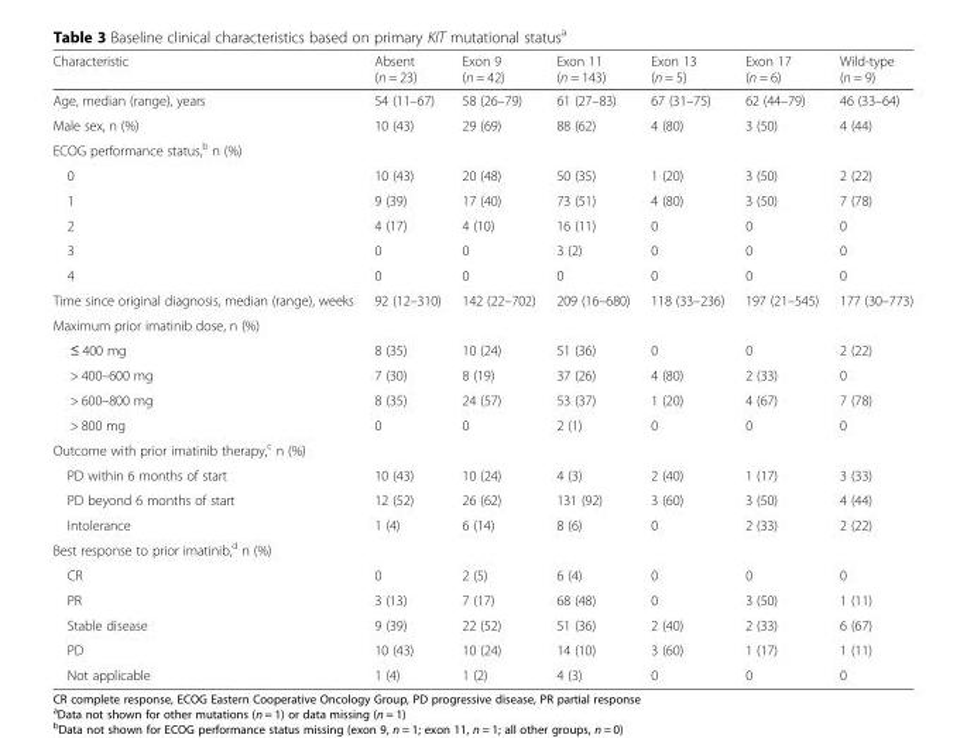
<table><thead><tr><td>Characteristic</td><td>Absent (n = 23)</td><td>Exon 9 (n = 42)</td><td>Exon 11 (n = 143)</td><td>Exon 13 (n = 5)</td><td>Exon 17 (n = 6)</td><td>Wild-type (n = 9)</td></tr></thead><tbody><tr><td>Age, median (range), years</td><td>54 (11–67)</td><td>58 (26–79)</td><td>61 (27–83)</td><td>67 (31–75)</td><td>62 (44–79)</td><td>46 (33–64)</td></tr><tr><td>Male sex, n (%)</td><td>10 (43)</td><td>29 (69)</td><td>88 (62)</td><td>4 (80)</td><td>3 (50)</td><td>4 (44)</td></tr><tr><td colspan="7">ECOG performance status,<sup>b</sup> n (%)</td></tr><tr><td>0</td><td>10 (43)</td><td>20 (48)</td><td>50 (35)</td><td>1 (20)</td><td>3 (50)</td><td>2 (22)</td></tr><tr><td>1</td><td>9 (39)</td><td>17 (40)</td><td>73 (51)</td><td>4 (80)</td><td>3 (50)</td><td>7 (78)</td></tr><tr><td>2</td><td>4 (17)</td><td>4 (10)</td><td>16 (11)</td><td>0</td><td>0</td><td>0</td></tr><tr><td>3</td><td>0</td><td>0</td><td>3 (2)</td><td>0</td><td>0</td><td>0</td></tr><tr><td>4</td><td>0</td><td>0</td><td>0</td><td>0</td><td>0</td><td>0</td></tr><tr><td>Time since original diagnosis, median (range), weeks</td><td>92 (12–310)</td><td>142 (22–702)</td><td>209 (16–680)</td><td>118 (33–236)</td><td>197 (21–545)</td><td>177 (30–773)</td></tr><tr><td colspan="7">Maximum prior imatinib dose, n (%)</td></tr><tr><td>≤ 400 mg</td><td>8 (35)</td><td>10 (24)</td><td>51 (36)</td><td>0</td><td>0</td><td>2 (22)</td></tr><tr><td>&gt; 400–600 mg</td><td>7 (30)</td><td>8 (19)</td><td>37 (26)</td><td>4 (80)</td><td>2 (33)</td><td>0</td></tr><tr><td>&gt; 600–800 mg</td><td>8 (35)</td><td>24 (57)</td><td>53 (37)</td><td>1 (20)</td><td>4 (67)</td><td>7 (78)</td></tr><tr><td>&gt; 800 mg</td><td>0</td><td>0</td><td>2 (1)</td><td>0</td><td>0</td><td>0</td></tr><tr><td colspan="7">Outcome with prior imatinib therapy,<sup>c</sup> n (%)</td></tr><tr><td>PD within 6 months of start</td><td>10 (43)</td><td>10 (24)</td><td>4 (3)</td><td>2 (40)</td><td>1 (17)</td><td>3 (33)</td></tr><tr><td>PD beyond 6 months of start</td><td>12 (52)</td><td>26 (62)</td><td>131 (92)</td><td>3 (60)</td><td>3 (50)</td><td>4 (44)</td></tr><tr><td>Intolerance</td><td>1 (4)</td><td>6 (14)</td><td>8 (6)</td><td>0</td><td>2 (33)</td><td>2 (22)</td></tr><tr><td colspan="7">Best response to prior imatinib,<sup>d</sup> n (%)</td></tr><tr><td>CR</td><td>0</td><td>2 (5)</td><td>6 (4)</td><td>0</td><td>0</td><td>0</td></tr><tr><td>PR</td><td>3 (13)</td><td>7 (17)</td><td>68 (48)</td><td>0</td><td>3 (50)</td><td>1 (11)</td></tr><tr><td>Stable disease</td><td>9 (39)</td><td>22 (52)</td><td>51 (36)</td><td>2 (40)</td><td>2 (33)</td><td>6 (67)</td></tr><tr><td>PD</td><td>10 (43)</td><td>10 (24)</td><td>14 (10)</td><td>3 (60)</td><td>1 (17)</td><td>1 (11)</td></tr><tr><td>Not applicable</td><td>1 (4)</td><td>1 (2)</td><td>4 (3)</td><td>0</td><td>0</td><td>0</td></tr></tbody></table>